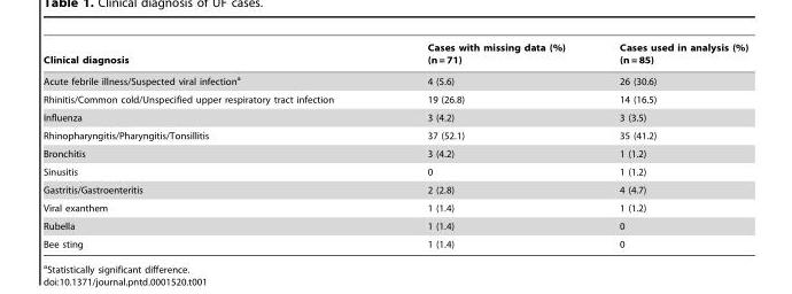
<table><thead><tr><td>Clinical diagnosis</td><td>Cases with missing data (%) (n = 71)</td><td>Cases used in analysis (%) (n = 85)</td></tr></thead><tbody><tr><td>Acute febrile illness/Suspected viral infection<sup>a</sup></td><td>4 (5.6)</td><td>26 (30.6)</td></tr><tr><td>Rhinitis/Common cold/Unspecified upper respiratory tract infection</td><td>19 (26.8)</td><td>14 (16.5)</td></tr><tr><td>Influenza</td><td>3 (4.2)</td><td>3 (3.5)</td></tr><tr><td>Rhinopharyngitis/Pharyngitis/Tonsillitis</td><td>37 (52.1)</td><td>35 (41.2)</td></tr><tr><td>Bronchitis</td><td>3 (4.2)</td><td>1 (1.2)</td></tr><tr><td>Sinusitis</td><td>0</td><td>1 (1.2)</td></tr><tr><td>Gastritis/Gastroenteritis</td><td>2 (2.8)</td><td>4 (4.7)</td></tr><tr><td>Viral exanthem</td><td>1 (1.4)</td><td>1 (1.2)</td></tr><tr><td>Rubella</td><td>1 (1.4)</td><td>0</td></tr><tr><td>Bee sting</td><td>1 (1.4)</td><td>0</td></tr></tbody></table>